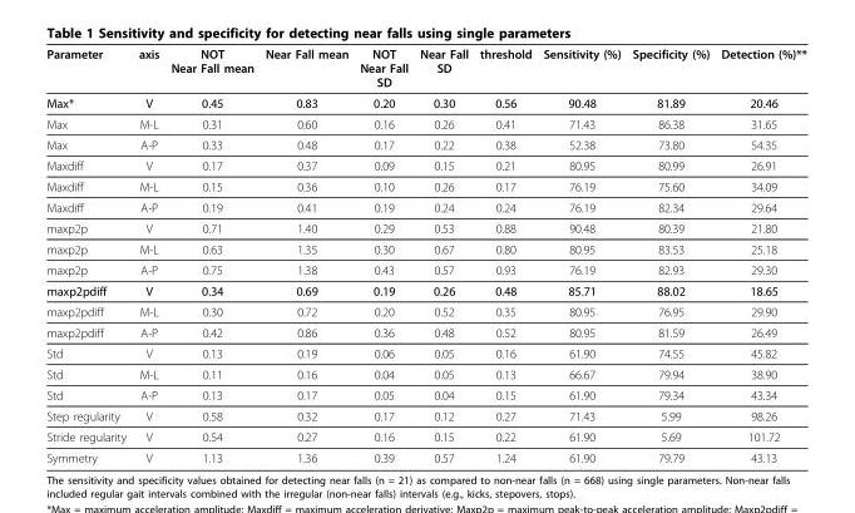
<table><thead><tr><td>Parameter</td><td>axis</td><td>NOT Near Fall mean</td><td>Near Fall mean</td><td>NOT Near Fall SD</td><td>Near Fall SD</td><td>threshold</td><td>Sensitivity (%)</td><td>Specificity (%)</td><td>Detection (%)**</td></tr></thead><tbody><tr><td>Max*</td><td>V</td><td>0.45</td><td>0.83</td><td>0.20</td><td>0.30</td><td>0.56</td><td>90.48</td><td>81.89</td><td>20.46</td></tr><tr><td>Max</td><td>M-L</td><td>0.31</td><td>0.60</td><td>0.16</td><td>0.26</td><td>0.41</td><td>71.43</td><td>86.38</td><td>31.65</td></tr><tr><td>Max</td><td>A-P</td><td>0.33</td><td>0.48</td><td>0.17</td><td>0.22</td><td>0.38</td><td>52.38</td><td>73.80</td><td>54.35</td></tr><tr><td>Maxdiff</td><td>V</td><td>0.17</td><td>0.37</td><td>0.09</td><td>0.15</td><td>0.21</td><td>80.95</td><td>80.99</td><td>26.91</td></tr><tr><td>Maxdiff</td><td>M-L</td><td>0.15</td><td>0.36</td><td>0.10</td><td>0.26</td><td>0.17</td><td>76.19</td><td>75.60</td><td>34.09</td></tr><tr><td>Maxdiff</td><td>A-P</td><td>0.19</td><td>0.41</td><td>0.19</td><td>0.24</td><td>0.24</td><td>76.19</td><td>82.34</td><td>29.64</td></tr><tr><td>maxp2p</td><td>V</td><td>0.71</td><td>1.40</td><td>0.29</td><td>0.53</td><td>0.88</td><td>90.48</td><td>80.39</td><td>21.80</td></tr><tr><td>maxp2p</td><td>M-L</td><td>0.63</td><td>1.35</td><td>0.30</td><td>0.67</td><td>0.80</td><td>80.95</td><td>83.53</td><td>25.18</td></tr><tr><td>maxp2p</td><td>A-P</td><td>0.75</td><td>1.38</td><td>0.43</td><td>0.57</td><td>0.93</td><td>76.19</td><td>82.93</td><td>29.30</td></tr><tr><td>maxp2pdiff</td><td>V</td><td>0.34</td><td>0.69</td><td>0.19</td><td>0.26</td><td>0.48</td><td>85.71</td><td>88.02</td><td>18.65</td></tr><tr><td>maxp2pdiff</td><td>M-L</td><td>0.30</td><td>0.72</td><td>0.20</td><td>0.52</td><td>0.35</td><td>80.95</td><td>76.95</td><td>29.90</td></tr><tr><td>maxp2pdiff</td><td>A-P</td><td>0.42</td><td>0.86</td><td>0.36</td><td>0.48</td><td>0.52</td><td>80.95</td><td>81.59</td><td>26.49</td></tr><tr><td>Std</td><td>V</td><td>0.13</td><td>0.19</td><td>0.06</td><td>0.05</td><td>0.16</td><td>61.90</td><td>74.55</td><td>45.82</td></tr><tr><td>Std</td><td>M-L</td><td>0.11</td><td>0.16</td><td>0.04</td><td>0.05</td><td>0.13</td><td>66.67</td><td>79.94</td><td>38.90</td></tr><tr><td>Std</td><td>A-P</td><td>0.13</td><td>0.17</td><td>0.05</td><td>0.04</td><td>0.15</td><td>61.90</td><td>79.34</td><td>43.34</td></tr><tr><td>Step regularity</td><td>V</td><td>0.58</td><td>0.32</td><td>0.17</td><td>0.12</td><td>0.27</td><td>71.43</td><td>5.99</td><td>98.26</td></tr><tr><td>Stride regularity</td><td>V</td><td>0.54</td><td>0.27</td><td>0.16</td><td>0.15</td><td>0.22</td><td>61.90</td><td>5.69</td><td>101.72</td></tr><tr><td>Symmetry</td><td>V</td><td>1.13</td><td>1.36</td><td>0.39</td><td>0.57</td><td>1.24</td><td>61.90</td><td>79.79</td><td>43.13</td></tr></tbody></table>